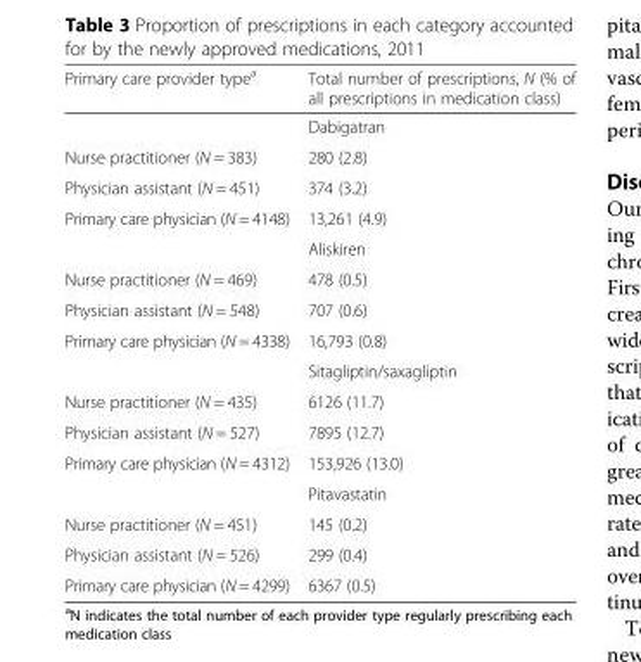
<table><thead><tr><td>Primary care provider type<sup>a</sup></td><td>Total number of prescriptions, N (% of all prescriptions in medication class)</td></tr></thead><tbody><tr><td></td><td>Dabigatran</td></tr><tr><td>Nurse practitioner (N = 383)</td><td>280 (2.8)</td></tr><tr><td>Physician assistant (N = 451)</td><td>374 (3.2)</td></tr><tr><td rowspan="2">Primary care physician (N = 4148)</td><td>13,261 (4.9)</td></tr><tr><td>Aliskiren</td></tr><tr><td>Nurse practitioner (N = 469)</td><td>478 (0.5)</td></tr><tr><td>Physician assistant (N = 548)</td><td>707 (0.6)</td></tr><tr><td rowspan="2">Primary care physician (N = 4338)</td><td>16,793 (0.8)</td></tr><tr><td>Sitagliptin/saxagliptin</td></tr><tr><td>Nurse practitioner (N = 435)</td><td>6126 (11.7)</td></tr><tr><td>Physician assistant (N = 527)</td><td>7895 (12.7)</td></tr><tr><td rowspan="2">Primary care physician (N = 4312)</td><td>153,926 (13.0)</td></tr><tr><td>Pitavastatin</td></tr><tr><td>Nurse practitioner (N = 451)</td><td>145 (0.2)</td></tr><tr><td>Physician assistant (N = 526)</td><td>299 (0.4)</td></tr><tr><td>Primary care physician (N = 4299)</td><td>6367 (0.5)</td></tr></tbody></table>